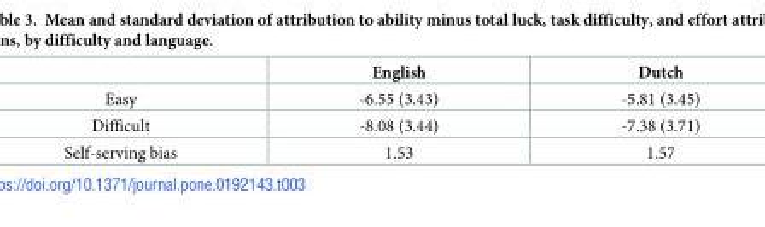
<table><thead><tr><td></td><td>English</td><td>Dutch</td></tr></thead><tbody><tr><td>Easy</td><td>-6.55 (3.43)</td><td>-5.81 (3.45)</td></tr><tr><td>Difficult</td><td>-8.08 (3.44)</td><td>-7.38 (3.71)</td></tr><tr><td>Self-serving bias</td><td>1.53</td><td>1.57</td></tr></tbody></table>